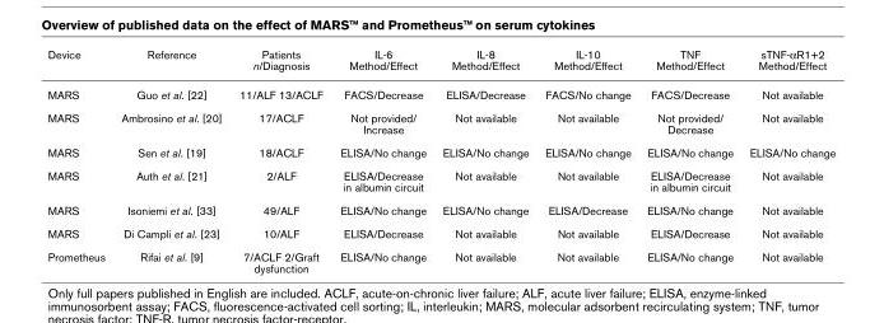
<table><thead><tr><td>Device</td><td>Reference</td><td>Patients n/Diagnosis</td><td>IL-6 Method/Effect</td><td>IL-8 Method/Effect</td><td>IL-10 Method/Effect</td><td>TNF Method/Effect</td><td>sTNF-αR1+2 Method/Effect</td></tr></thead><tbody><tr><td>MARS</td><td>Guo et al. [22]</td><td>11/ALF 13/ACLF</td><td>FACS/Decrease</td><td>ELISA/Decrease</td><td>FACS/No change</td><td>FACS/Decrease</td><td>Not available</td></tr><tr><td>MARS</td><td>Ambrosino et al. [20]</td><td>17/ACLF</td><td>Not provided/ Increase</td><td>Not available</td><td>Not available</td><td>Not provided/ Decrease</td><td>Not available</td></tr><tr><td>MARS</td><td>Sen et al. [19]</td><td>18/ACLF</td><td>ELISA/No change</td><td>ELISA/No change</td><td>ELISA/No change</td><td>ELISA/No change</td><td>ELISA/No change</td></tr><tr><td>MARS</td><td>Auth et al. [21]</td><td>2/ALF</td><td>ELISA/Decrease in albumin circuit</td><td>Not available</td><td>Not available</td><td>ELISA/Decrease in albumin circuit</td><td>Not available</td></tr><tr><td>MARS</td><td>Isoniemi et al. [33]</td><td>49/ALF</td><td>ELISA/No change</td><td>ELISA/No change</td><td>ELISA/Decrease</td><td>ELISA/No change</td><td>Not available</td></tr><tr><td>MARS</td><td>Di Campli et al. [23]</td><td>10/ALF</td><td>ELISA/Decrease</td><td>Not available</td><td>Not available</td><td>ELISA/Decrease</td><td>Not available</td></tr><tr><td>Prometheus</td><td>Rifai et al. [9]</td><td>7/ACLF 2/Graft dysfunction</td><td>ELISA/No change</td><td>Not available</td><td>Not available</td><td>ELISA/No change</td><td>Not available</td></tr></tbody></table>